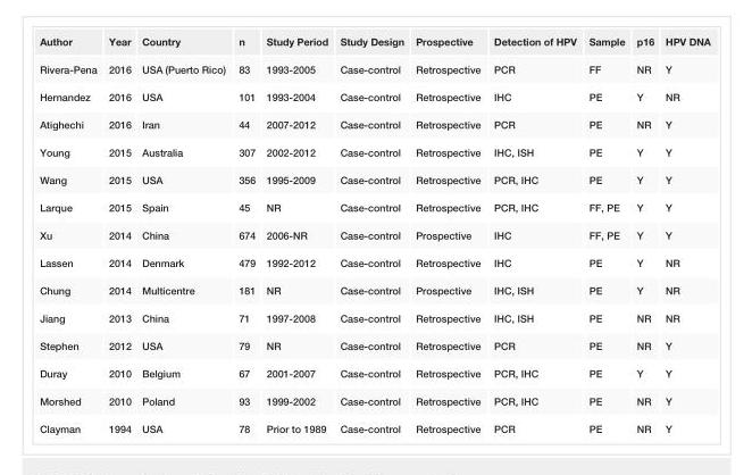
<table><tbody><tr><td>Author</td><td>Year</td><td>Country</td><td>n</td><td>Study Period</td><td>Study Design</td><td>Prospective</td><td>Detection of HPV</td><td>Sample</td><td>p16</td><td>HPV DNA</td></tr><tr><td>Rivera-Pena</td><td>2016</td><td>USA (Puerto Rico)</td><td>83</td><td>1993-2005</td><td>Case-control</td><td>Retrospective</td><td>PCR</td><td>FF</td><td>NR</td><td>Y</td></tr><tr><td>Hernandez</td><td>2016</td><td>USA</td><td>101</td><td>1993-2004</td><td>Case-control</td><td>Retrospective</td><td>IHC</td><td>PE</td><td>Y</td><td>NR</td></tr><tr><td>Atighechi</td><td>2016</td><td>Iran</td><td>44</td><td>2007-2012</td><td>Case-control</td><td>Retrospective</td><td>PCR</td><td>PE</td><td>NR</td><td>Y</td></tr><tr><td>Young</td><td>2015</td><td>Australia</td><td>307</td><td>2002-2012</td><td>Case-control</td><td>Retrospective</td><td>IHC, ISH</td><td>PE</td><td>Y</td><td>Y</td></tr><tr><td>Wang</td><td>2015</td><td>USA</td><td>356</td><td>1995-2009</td><td>Case-control</td><td>Retrospective</td><td>PCR, IHC</td><td>PE</td><td>Y</td><td>Y</td></tr><tr><td>Larque</td><td>2015</td><td>Spain</td><td>45</td><td>NR</td><td>Case-control</td><td>Retrospective</td><td>PCR, IHC</td><td>FF, PE</td><td>Y</td><td>Y</td></tr><tr><td>Xu</td><td>2014</td><td>China</td><td>674</td><td>2006-NR</td><td>Case-control</td><td>Prospective</td><td>IHC</td><td>FF, PE</td><td>Y</td><td>Y</td></tr><tr><td>Lassen</td><td>2014</td><td>Denmark</td><td>479</td><td>1992-2012</td><td>Case-control</td><td>Retrospective</td><td>IHC</td><td>PE</td><td>Y</td><td>NR</td></tr><tr><td>Chung</td><td>2014</td><td>Multicentre</td><td>181</td><td>NR</td><td>Case-control</td><td>Prospective</td><td>IHC, ISH</td><td>PE</td><td>Y</td><td>NR</td></tr><tr><td>Jiang</td><td>2013</td><td>China</td><td>71</td><td>1997-2008</td><td>Case-control</td><td>Retrospective</td><td>IHC, ISH</td><td>PE</td><td>NR</td><td>NR</td></tr><tr><td>Stephen</td><td>2012</td><td>USA</td><td>79</td><td>NR</td><td>Case-control</td><td>Retrospective</td><td>PCR</td><td>PE</td><td>NR</td><td>Y</td></tr><tr><td>Duray</td><td>2010</td><td>Belgium</td><td>67</td><td>2001-2007</td><td>Case-control</td><td>Retrospective</td><td>PCR, IHC</td><td>PE</td><td>Y</td><td>Y</td></tr><tr><td>Morshed</td><td>2010</td><td>Poland</td><td>93</td><td>1999-2002</td><td>Case-control</td><td>Retrospective</td><td>PCR, IHC</td><td>PE</td><td>NR</td><td>Y</td></tr><tr><td>Clayman</td><td>1994</td><td>USA</td><td>78</td><td>Prior to 1989</td><td>Case-control</td><td>Retrospective</td><td>PCR</td><td>PE</td><td>NR</td><td>Y</td></tr></tbody></table>